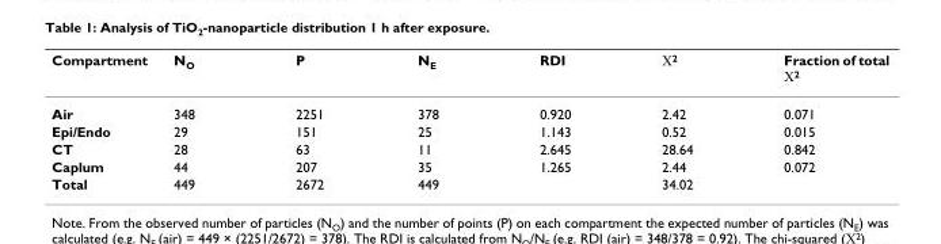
<table><thead><tr><td>Compartment</td><td>N<sub>O</sub></td><td>P</td><td>N<sub>E</sub></td><td>RDI</td><td>Χ<sup>2</sup></td><td>Fraction of total Χ<sup>2</sup></td></tr></thead><tbody><tr><td>Air</td><td>348</td><td>2251</td><td>378</td><td>0.920</td><td>2.42</td><td>0.071</td></tr><tr><td>Epi/Endo</td><td>29</td><td>151</td><td>25</td><td>1.143</td><td>0.52</td><td>0.015</td></tr><tr><td>CT</td><td>28</td><td>63</td><td>11</td><td>2.645</td><td>28.64</td><td>0.842</td></tr><tr><td>Caplum</td><td>44</td><td>207</td><td>35</td><td>1.265</td><td>2.44</td><td>0.072</td></tr><tr><td>Total</td><td>449</td><td>2672</td><td>449</td><td></td><td>34.02</td><td></td></tr></tbody></table>